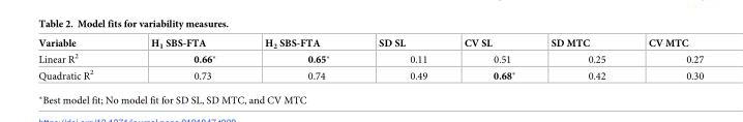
<table><thead><tr><td>Variable</td><td>H<sub>1</sub> SBS-FTA</td><td>H<sub>2</sub> SBS-FTA</td><td>SD SL</td><td>CV SL</td><td>SD MTC</td><td>CV MTC</td></tr></thead><tbody><tr><td>Linear R<sup>2</sup></td><td>0.66*</td><td>0.65*</td><td>0.11</td><td>0.51</td><td>0.25</td><td>0.27</td></tr><tr><td>Quadratic R<sup>2</sup></td><td>0.73</td><td>0.74</td><td>0.49</td><td>0.68*</td><td>0.42</td><td>0.30</td></tr></tbody></table>